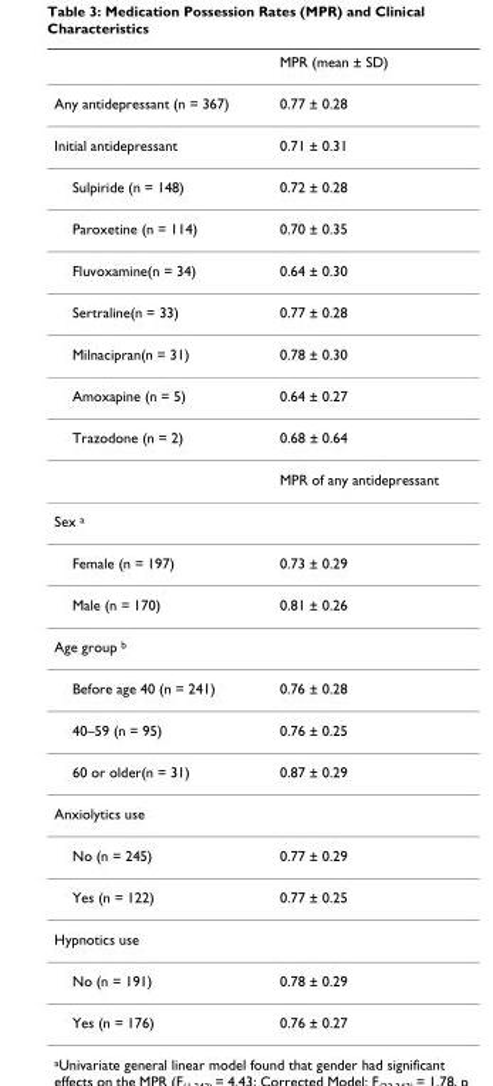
<table><thead><tr><td></td><td>MPR (mean ± SD)</td></tr></thead><tbody><tr><td>Any antidepressant (n = 367)</td><td>0.77 ± 0.28</td></tr><tr><td>Initial antidepressant</td><td>0.71 ± 0.31</td></tr><tr><td>Sulpiride (n = 148)</td><td>0.72 ± 0.28</td></tr><tr><td>Paroxetine (n = 114)</td><td>0.70 ± 0.35</td></tr><tr><td>Fluvoxamine(n = 34)</td><td>0.64 ± 0.30</td></tr><tr><td>Sertraline(n = 33)</td><td>0.77 ± 0.28</td></tr><tr><td>Milnacipran(n = 31)</td><td>0.78 ± 0.30</td></tr><tr><td>Amoxapine (n = 5)</td><td>0.64 ± 0.27</td></tr><tr><td rowspan="2">Trazodone (n = 2)</td><td>0.68 ± 0.64</td></tr><tr><td>MPR of any antidepressant</td></tr><tr><td colspan="2">Sex <sup>a</sup></td></tr><tr><td>Female (n = 197)</td><td>0.73 ± 0.29</td></tr><tr><td>Male (n = 170)</td><td>0.81 ± 0.26</td></tr><tr><td colspan="2">Age group <sup>b</sup></td></tr><tr><td>Before age 40 (n = 241)</td><td>0.76 ± 0.28</td></tr><tr><td>40–59 (n = 95)</td><td>0.76 ± 0.25</td></tr><tr><td>60 or older(n = 31)</td><td>0.87 ± 0.29</td></tr><tr><td colspan="2">Anxiolytics use</td></tr><tr><td>No (n = 245)</td><td>0.77 ± 0.29</td></tr><tr><td>Yes (n = 122)</td><td>0.77 ± 0.25</td></tr><tr><td colspan="2">Hypnotics use</td></tr><tr><td>No (n = 191)</td><td>0.78 ± 0.29</td></tr><tr><td>Yes (n = 176)</td><td>0.76 ± 0.27</td></tr></tbody></table>